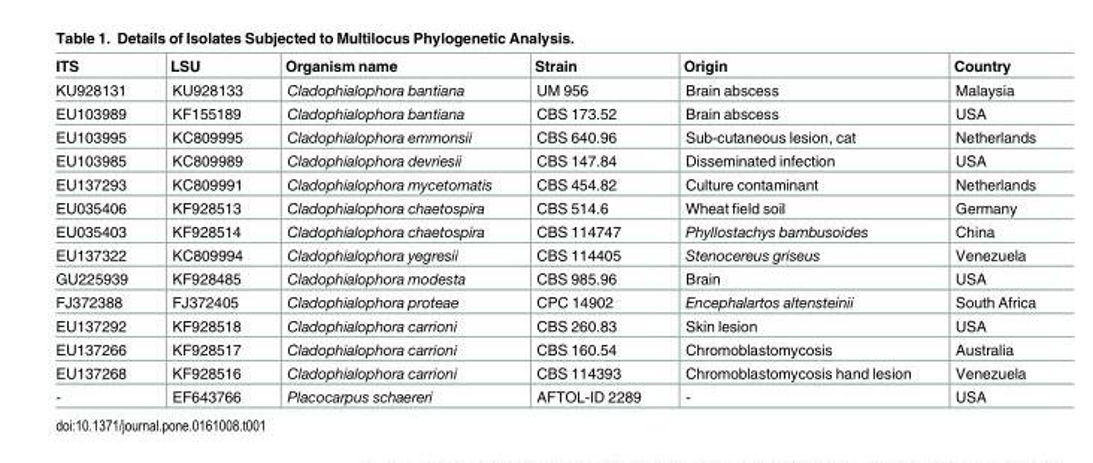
<table><thead><tr><td>ITS</td><td>LSU</td><td>Organism name</td><td>Strain</td><td>Origin</td><td>Country</td></tr></thead><tbody><tr><td>KU928131</td><td>KU928133</td><td>Cladophialophora bantiana</td><td>UM 956</td><td>Brain abscess</td><td>Malaysia</td></tr><tr><td>EU103989</td><td>KF155189</td><td>Cladophialophora bantiana</td><td>CBS 173.52</td><td>Brain abscess</td><td>USA</td></tr><tr><td>EU103995</td><td>KC809995</td><td>Cladophialophora emmonsii</td><td>CBS 640.96</td><td>Sub-cutaneous lesion, cat</td><td>Netherlands</td></tr><tr><td>EU103985</td><td>KC809989</td><td>Cladophialophora devriesii</td><td>CBS 147.84</td><td>Disseminated infection</td><td>USA</td></tr><tr><td>EU137293</td><td>KC809991</td><td>Cladophialophora mycetomatis</td><td>CBS 454.82</td><td>Culture contaminant</td><td>Netherlands</td></tr><tr><td>EU035406</td><td>KF928513</td><td>Cladophialophora chaetospira</td><td>CBS 514.6</td><td>Wheat field soil</td><td>Germany</td></tr><tr><td>EU035403</td><td>KF928514</td><td>Cladophialophora chaetospira</td><td>CBS 114747</td><td>Phyllostachys bambusoides</td><td>China</td></tr><tr><td>EU137322</td><td>KC809994</td><td>Cladophialophora yegresii</td><td>CBS 114405</td><td>Stenocereus griseus</td><td>Venezuela</td></tr><tr><td>GU225939</td><td>KF928485</td><td>Cladophialophora modesta</td><td>CBS 985.96</td><td>Brain</td><td>USA</td></tr><tr><td>FJ372388</td><td>FJ372405</td><td>Cladophialophora proteae</td><td>CPC 14902</td><td>Encephalartos altensteinii</td><td>South Africa</td></tr><tr><td>EU137292</td><td>KF928518</td><td>Cladophialophora carrioni</td><td>CBS 260.83</td><td>Skin lesion</td><td>USA</td></tr><tr><td>EU137266</td><td>KF928517</td><td>Cladophialophora carrioni</td><td>CBS 160.54</td><td>Chromoblastomycosis</td><td>Australia</td></tr><tr><td>EU137268</td><td>KF928516</td><td>Cladophialophora carrioni</td><td>CBS 114393</td><td>Chromoblastomycosis hand lesion</td><td>Venezuela</td></tr><tr><td>-</td><td>EF643766</td><td>Placocarpus schaereri</td><td>AFTOL-ID 2289</td><td>-</td><td>USA</td></tr></tbody></table>